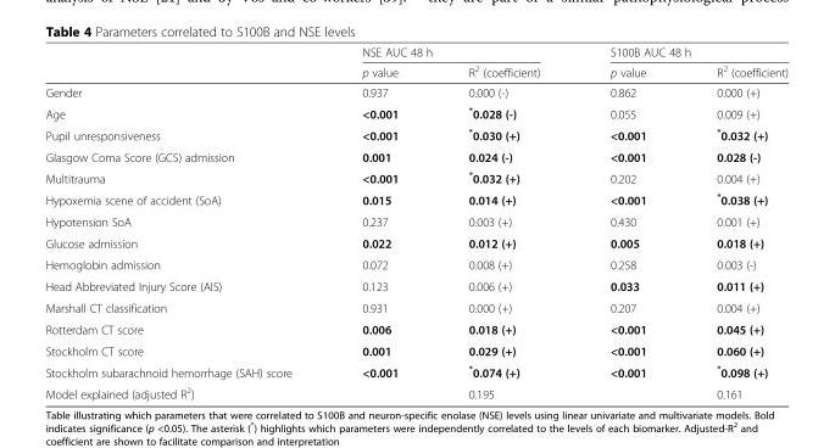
<table><thead><tr><td rowspan="2"></td><td colspan="2">NSE AUC 48 h</td><td colspan="2">S100B AUC 48 h</td></tr><tr><td>p value</td><td>R<sup>2</sup> (coefficient)</td><td>p value</td><td>R<sup>2</sup> (coefficient)</td></tr></thead><tbody><tr><td>Gender</td><td>0.937</td><td>0.000 (-)</td><td>0.862</td><td>0.000 (+)</td></tr><tr><td>Age</td><td>&lt;0.001</td><td>*0.028 (-)</td><td>0.055</td><td>0.009 (+)</td></tr><tr><td>Pupil unresponsiveness</td><td>&lt;0.001</td><td>*0.030 (+)</td><td>&lt;0.001</td><td>*0.032 (+)</td></tr><tr><td>Glasgow Coma Score (GCS) admission</td><td>0.001</td><td>0.024 (-)</td><td>&lt;0.001</td><td>0.028 (-)</td></tr><tr><td>Multitrauma</td><td>&lt;0.001</td><td>*0.032 (+)</td><td>0.202</td><td>0.004 (+)</td></tr><tr><td>Hypoxemia scene of accident (SoA)</td><td>0.015</td><td>0.014 (+)</td><td>&lt;0.001</td><td>*0.038 (+)</td></tr><tr><td>Hypotension SoA</td><td>0.237</td><td>0.003 (+)</td><td>0.430</td><td>0.001 (+)</td></tr><tr><td>Glucose admission</td><td>0.022</td><td>0.012 (+)</td><td>0.005</td><td>0.018 (+)</td></tr><tr><td>Hemoglobin admission</td><td>0.072</td><td>0.008 (+)</td><td>0.258</td><td>0.003 (-)</td></tr><tr><td>Head Abbreviated Injury Score (AIS)</td><td>0.123</td><td>0.006 (+)</td><td>0.033</td><td>0.011 (+)</td></tr><tr><td>Marshall CT classification</td><td>0.931</td><td>0.000 (+)</td><td>0.207</td><td>0.004 (+)</td></tr><tr><td>Rotterdam CT score</td><td>0.006</td><td>0.018 (+)</td><td>&lt;0.001</td><td>0.045 (+)</td></tr><tr><td>Stockholm CT score</td><td>0.001</td><td>0.029 (+)</td><td>&lt;0.001</td><td>0.060 (+)</td></tr><tr><td>Stockholm subarachnoid hemorrhage (SAH) score</td><td>&lt;0.001</td><td>*0.074 (+)</td><td>&lt;0.001</td><td>*0.098 (+)</td></tr><tr><td>Model explained (adjusted R<sup>2</sup>)</td><td></td><td>0.195</td><td></td><td>0.161</td></tr></tbody></table>